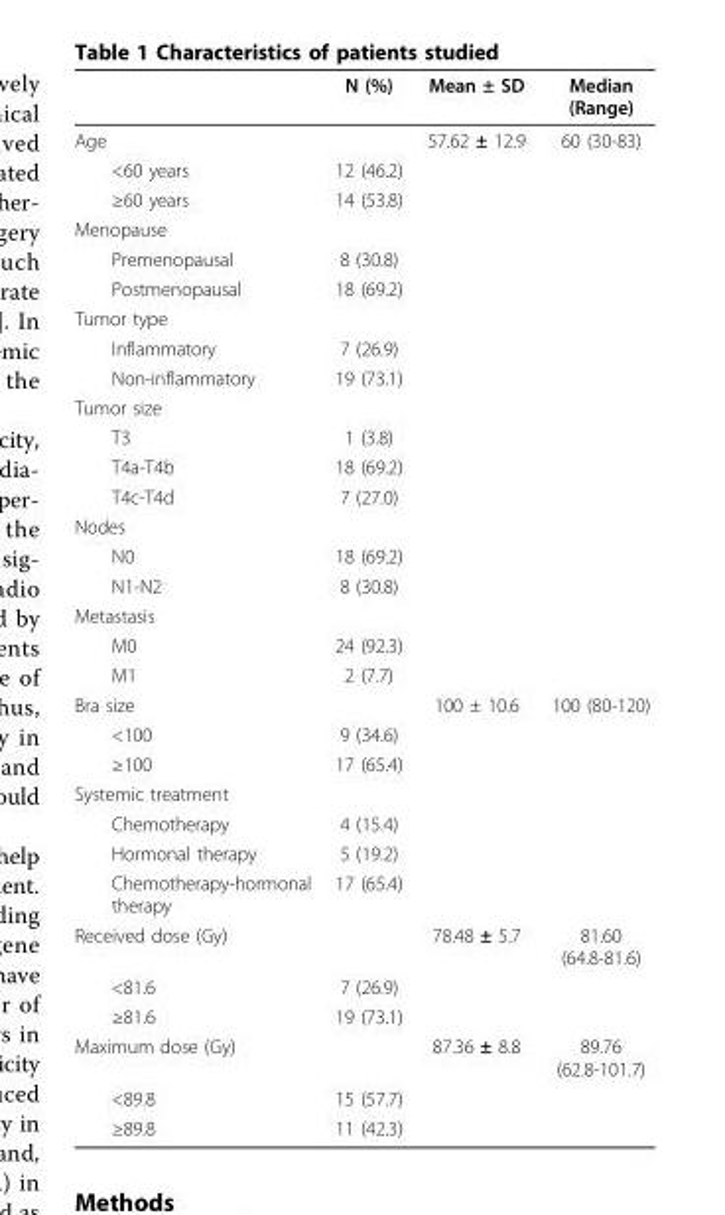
<table><thead><tr><td></td><td>N (%)</td><td>Mean ± SD</td><td>Median (Range)</td></tr></thead><tbody><tr><td>Age</td><td></td><td>57.62 ± 12.9</td><td>60 (30-83)</td></tr><tr><td>&lt;60 years</td><td>12 (46.2)</td><td></td><td></td></tr><tr><td>≥60 years</td><td>14 (53.8)</td><td></td><td></td></tr><tr><td colspan="4">Menopause</td></tr><tr><td>Premenopausal</td><td>8 (30.8)</td><td></td><td></td></tr><tr><td>Postmenopausal</td><td>18 (69.2)</td><td></td><td></td></tr><tr><td colspan="4">Tumor type</td></tr><tr><td>Inflammatory</td><td>7 (26.9)</td><td></td><td></td></tr><tr><td>Non-inflammatory</td><td>19 (73.1)</td><td></td><td></td></tr><tr><td colspan="4">Tumor size</td></tr><tr><td>T3</td><td>1 (3.8)</td><td></td><td></td></tr><tr><td>T4a-T4b</td><td>18 (69.2)</td><td></td><td></td></tr><tr><td>T4c-T4d</td><td>7 (27.0)</td><td></td><td></td></tr><tr><td colspan="4">Nodes</td></tr><tr><td>N0</td><td>18 (69.2)</td><td></td><td></td></tr><tr><td>N1-N2</td><td>8 (30.8)</td><td></td><td></td></tr><tr><td colspan="4">Metastasis</td></tr><tr><td>M0</td><td>24 (92.3)</td><td></td><td></td></tr><tr><td>M1</td><td>2 (7.7)</td><td></td><td></td></tr><tr><td>Bra size</td><td></td><td>100 ± 10.6</td><td>100 (80-120)</td></tr><tr><td>&lt;100</td><td>9 (34.6)</td><td></td><td></td></tr><tr><td>≥100</td><td>17 (65.4)</td><td></td><td></td></tr><tr><td colspan="4">Systemic treatment</td></tr><tr><td>Chemotherapy</td><td>4 (15.4)</td><td></td><td></td></tr><tr><td>Hormonal therapy</td><td>5 (19.2)</td><td></td><td></td></tr><tr><td>Chemotherapy-hormonal therapy</td><td>17 (65.4)</td><td></td><td></td></tr><tr><td>Received dose (Gy)</td><td></td><td>78.48 ± 5.7</td><td>81.60 (64.8-81.6)</td></tr><tr><td>&lt;81.6</td><td>7 (26.9)</td><td></td><td></td></tr><tr><td>≥81.6</td><td>19 (73.1)</td><td></td><td></td></tr><tr><td>Maximum dose (Gy)</td><td></td><td>87.36 ± 8.8</td><td>89.76 (62.8-101.7)</td></tr><tr><td>&lt;89.8</td><td>15 (57.7)</td><td></td><td></td></tr><tr><td>≥89.8</td><td>11 (42.3)</td><td></td><td></td></tr></tbody></table>